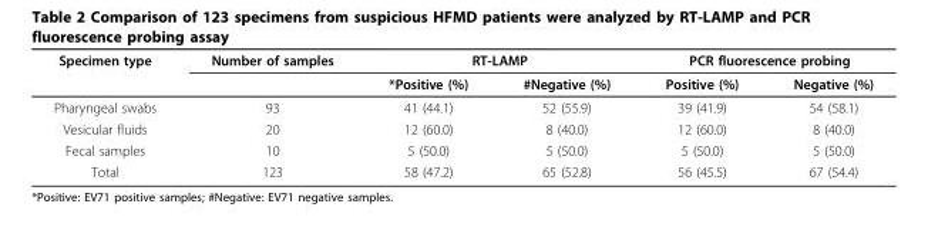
<table><thead><tr><td rowspan="2">Specimen type</td><td rowspan="2">Number of samples</td><td colspan="2">RT-LAMP</td><td colspan="2">PCR fluorescence probing</td></tr><tr><td>*Positive (%)</td><td>#Negative (%)</td><td>Positive (%)</td><td>Negative (%)</td></tr></thead><tbody><tr><td>Pharyngeal swabs</td><td>93</td><td>41 (44.1)</td><td>52 (55.9)</td><td>39 (41.9)</td><td>54 (58.1)</td></tr><tr><td>Vesicular fluids</td><td>20</td><td>12 (60.0)</td><td>8 (40.0)</td><td>12 (60.0)</td><td>8 (40.0)</td></tr><tr><td>Fecal samples</td><td>10</td><td>5 (50.0)</td><td>5 (50.0)</td><td>5 (50.0)</td><td>5 (50.0)</td></tr><tr><td>Total</td><td>123</td><td>58 (47.2)</td><td>65 (52.8)</td><td>56 (45.5)</td><td>67 (54.4)</td></tr></tbody></table>